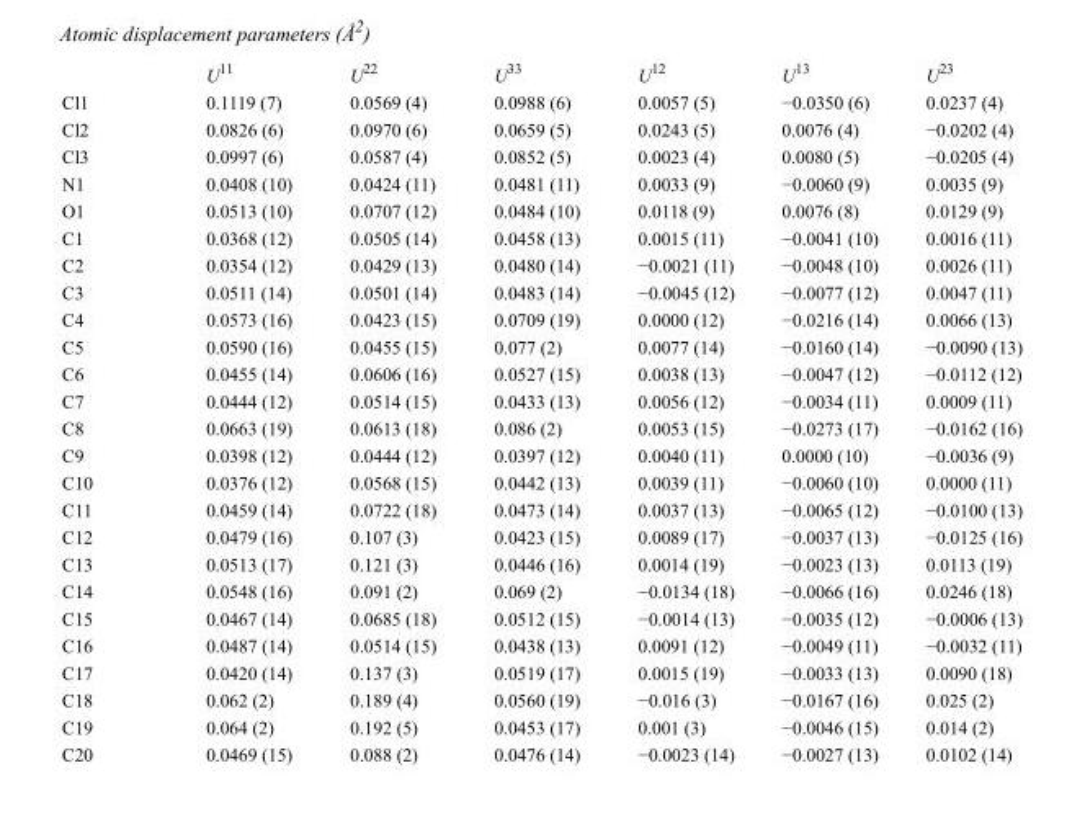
<table><thead><tr><td></td><td>U<sup>11</sup></td><td>U<sup>22</sup></td><td>U<sup>33</sup></td><td>U<sup>12</sup></td><td>U<sup>13</sup></td><td>U<sup>23</sup></td></tr></thead><tbody><tr><td>Cl1</td><td>0.1119 (7)</td><td>0.0569 (4)</td><td>0.0988 (6)</td><td>0.0057 (5)</td><td>−0.0350 (6)</td><td>0.0237 (4)</td></tr><tr><td>Cl2</td><td>0.0826 (6)</td><td>0.0970 (6)</td><td>0.0659 (5)</td><td>0.0243 (5)</td><td>0.0076 (4)</td><td>−0.0202 (4)</td></tr><tr><td>Cl3</td><td>0.0997 (6)</td><td>0.0587 (4)</td><td>0.0852 (5)</td><td>0.0023 (4)</td><td>0.0080 (5)</td><td>−0.0205 (4)</td></tr><tr><td>N1</td><td>0.0408 (10)</td><td>0.0424 (11)</td><td>0.0481 (11)</td><td>0.0033 (9)</td><td>−0.0060 (9)</td><td>0.0035 (9)</td></tr><tr><td>O1</td><td>0.0513 (10)</td><td>0.0707 (12)</td><td>0.0484 (10)</td><td>0.0118 (9)</td><td>0.0076 (8)</td><td>0.0129 (9)</td></tr><tr><td>C1</td><td>0.0368 (12)</td><td>0.0505 (14)</td><td>0.0458 (13)</td><td>0.0015 (11)</td><td>−0.0041 (10)</td><td>0.0016 (11)</td></tr><tr><td>C2</td><td>0.0354 (12)</td><td>0.0429 (13)</td><td>0.0480 (14)</td><td>−0.0021 (11)</td><td>−0.0048 (10)</td><td>0.0026 (11)</td></tr><tr><td>C3</td><td>0.0511 (14)</td><td>0.0501 (14)</td><td>0.0483 (14)</td><td>−0.0045 (12)</td><td>−0.0077 (12)</td><td>0.0047 (11)</td></tr><tr><td>C4</td><td>0.0573 (16)</td><td>0.0423 (15)</td><td>0.0709 (19)</td><td>0.0000 (12)</td><td>−0.0216 (14)</td><td>0.0066 (13)</td></tr><tr><td>C5</td><td>0.0590 (16)</td><td>0.0455 (15)</td><td>0.077 (2)</td><td>0.0077 (14)</td><td>−0.0160 (14)</td><td>−0.0090 (13)</td></tr><tr><td>C6</td><td>0.0455 (14)</td><td>0.0606 (16)</td><td>0.0527 (15)</td><td>0.0038 (13)</td><td>−0.0047 (12)</td><td>−0.0112 (12)</td></tr><tr><td>C7</td><td>0.0444 (12)</td><td>0.0514 (15)</td><td>0.0433 (13)</td><td>0.0056 (12)</td><td>−0.0034 (11)</td><td>0.0009 (11)</td></tr><tr><td>C8</td><td>0.0663 (19)</td><td>0.0613 (18)</td><td>0.086 (2)</td><td>0.0053 (15)</td><td>−0.0273 (17)</td><td>−0.0162 (16)</td></tr><tr><td>C9</td><td>0.0398 (12)</td><td>0.0444 (12)</td><td>0.0397 (12)</td><td>0.0040 (11)</td><td>0.0000 (10)</td><td>−0.0036 (9)</td></tr><tr><td>C10</td><td>0.0376 (12)</td><td>0.0568 (15)</td><td>0.0442 (13)</td><td>0.0039 (11)</td><td>−0.0060 (10)</td><td>0.0000 (11)</td></tr><tr><td>C11</td><td>0.0459 (14)</td><td>0.0722 (18)</td><td>0.0473 (14)</td><td>0.0037 (13)</td><td>−0.0065 (12)</td><td>−0.0100 (13)</td></tr><tr><td>C12</td><td>0.0479 (16)</td><td>0.107 (3)</td><td>0.0423 (15)</td><td>0.0089 (17)</td><td>−0.0037 (13)</td><td>−0.0125 (16)</td></tr><tr><td>C13</td><td>0.0513 (17)</td><td>0.121 (3)</td><td>0.0446 (16)</td><td>0.0014 (19)</td><td>−0.0023 (13)</td><td>0.0113 (19)</td></tr><tr><td>C14</td><td>0.0548 (16)</td><td>0.091 (2)</td><td>0.069 (2)</td><td>−0.0134 (18)</td><td>−0.0066 (16)</td><td>0.0246 (18)</td></tr><tr><td>C15</td><td>0.0467 (14)</td><td>0.0685 (18)</td><td>0.0512 (15)</td><td>−0.0014 (13)</td><td>−0.0035 (12)</td><td>−0.0006 (13)</td></tr><tr><td>C16</td><td>0.0487 (14)</td><td>0.0514 (15)</td><td>0.0438 (13)</td><td>0.0091 (12)</td><td>−0.0049 (11)</td><td>−0.0032 (11)</td></tr><tr><td>C17</td><td>0.0420 (14)</td><td>0.137 (3)</td><td>0.0519 (17)</td><td>0.0015 (19)</td><td>−0.0033 (13)</td><td>0.0090 (18)</td></tr><tr><td>C18</td><td>0.062 (2)</td><td>0.189 (4)</td><td>0.0560 (19)</td><td>−0.016 (3)</td><td>−0.0167 (16)</td><td>0.025 (2)</td></tr><tr><td>C19</td><td>0.064 (2)</td><td>0.192 (5)</td><td>0.0453 (17)</td><td>0.001 (3)</td><td>−0.0046 (15)</td><td>0.014 (2)</td></tr><tr><td>C20</td><td>0.0469 (15)</td><td>0.088 (2)</td><td>0.0476 (14)</td><td>−0.0023 (14)</td><td>−0.0027 (13)</td><td>0.0102 (14)</td></tr></tbody></table>